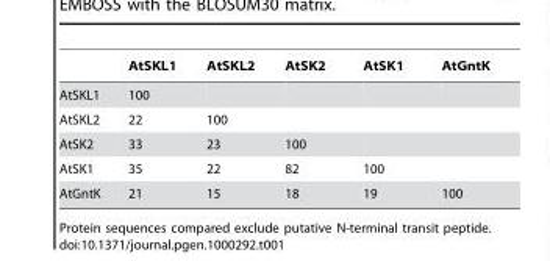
<table><thead><tr><td></td><td>AtSKL1</td><td>AtSKL2</td><td>AtSK2</td><td>AtSK1</td><td>AtGntK</td></tr></thead><tbody><tr><td>AtSKL1</td><td>100</td><td></td><td></td><td></td><td></td></tr><tr><td>AtSKL2</td><td>22</td><td>100</td><td></td><td></td><td></td></tr><tr><td>AtSK2</td><td>33</td><td>23</td><td>100</td><td></td><td></td></tr><tr><td>AtSK1</td><td>35</td><td>22</td><td>82</td><td>100</td><td></td></tr><tr><td>AtGntK</td><td>21</td><td>15</td><td>18</td><td>19</td><td>100</td></tr></tbody></table>